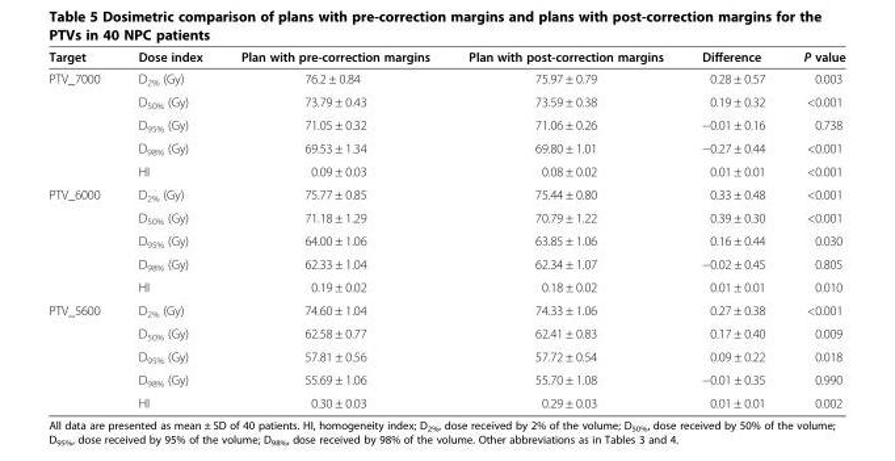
<table><thead><tr><td>Target</td><td>Dose index</td><td>Plan with pre-correction margins</td><td>Plan with post-correction margins</td><td>Difference</td><td>P value</td></tr></thead><tbody><tr><td rowspan="5">PTV_7000</td><td>D<sub>2%</sub> (Gy)</td><td>76.2 ± 0.84</td><td>75.97 ± 0.79</td><td>0.28 ± 0.57</td><td>0.003</td></tr><tr><td>D<sub>50%</sub> (Gy)</td><td>73.79 ± 0.43</td><td>73.59 ± 0.38</td><td>0.19 ± 0.32</td><td>&lt;0.001</td></tr><tr><td>D<sub>95%</sub> (Gy)</td><td>71.05 ± 0.32</td><td>71.06 ± 0.26</td><td>−0.01 ± 0.16</td><td>0.738</td></tr><tr><td>D<sub>98%</sub> (Gy)</td><td>69.53 ± 1.34</td><td>69.80 ± 1.01</td><td>−0.27 ± 0.44</td><td>&lt;0.001</td></tr><tr><td>HI</td><td>0.09 ± 0.03</td><td>0.08 ± 0.02</td><td>0.01 ± 0.01</td><td>&lt;0.001</td></tr><tr><td rowspan="5">PTV_6000</td><td>D<sub>2%</sub> (Gy)</td><td>75.77 ± 0.85</td><td>75.44 ± 0.80</td><td>0.33 ± 0.48</td><td>&lt;0.001</td></tr><tr><td>D<sub>50%</sub> (Gy)</td><td>71.18 ± 1.29</td><td>70.79 ± 1.22</td><td>0.39 ± 0.30</td><td>&lt;0.001</td></tr><tr><td>D<sub>95%</sub> (Gy)</td><td>64.00 ± 1.06</td><td>63.85 ± 1.06</td><td>0.16 ± 0.44</td><td>0.030</td></tr><tr><td>D<sub>98%</sub> (Gy)</td><td>62.33 ± 1.04</td><td>62.34 ± 1.07</td><td>−0.02 ± 0.45</td><td>0.805</td></tr><tr><td>HI</td><td>0.19 ± 0.02</td><td>0.18 ± 0.02</td><td>0.01 ± 0.01</td><td>0.010</td></tr><tr><td rowspan="5">PTV_5600</td><td>D<sub>2%</sub> (Gy)</td><td>74.60 ± 1.04</td><td>74.33 ± 1.06</td><td>0.27 ± 0.38</td><td>&lt;0.001</td></tr><tr><td>D<sub>50%</sub> (Gy)</td><td>62.58 ± 0.77</td><td>62.41 ± 0.83</td><td>0.17 ± 0.40</td><td>0.009</td></tr><tr><td>D<sub>95%</sub> (Gy)</td><td>57.81 ± 0.56</td><td>57.72 ± 0.54</td><td>0.09 ± 0.22</td><td>0.018</td></tr><tr><td>D<sub>98%</sub> (Gy)</td><td>55.69 ± 1.06</td><td>55.70 ± 1.08</td><td>−0.01 ± 0.35</td><td>0.990</td></tr><tr><td>HI</td><td>0.30 ± 0.03</td><td>0.29 ± 0.03</td><td>0.01 ± 0.01</td><td>0.002</td></tr></tbody></table>